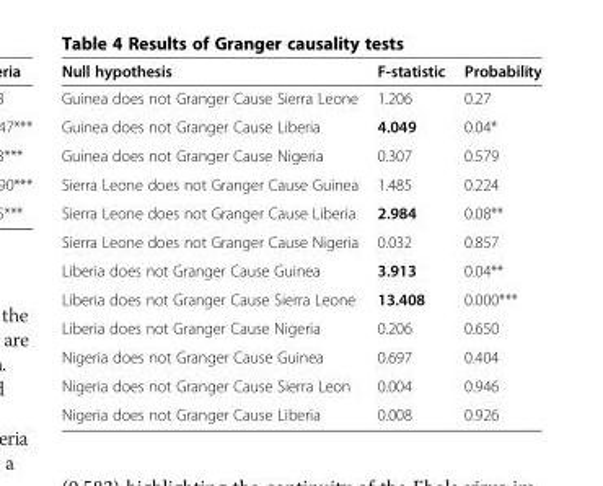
<table><thead><tr><td>Null hypothesis</td><td>F-statistic</td><td>Probability</td></tr></thead><tbody><tr><td>Guinea does not Granger Cause Sierra Leone</td><td>1.206</td><td>0.27</td></tr><tr><td>Guinea does not Granger Cause Liberia</td><td>4.049</td><td>0.04*</td></tr><tr><td>Guinea does not Granger Cause Nigeria</td><td>0.307</td><td>0.579</td></tr><tr><td>Sierra Leone does not Granger Cause Guinea</td><td>1.485</td><td>0.224</td></tr><tr><td>Sierra Leone does not Granger Cause Liberia</td><td>2.984</td><td>0.08**</td></tr><tr><td>Sierra Leone does not Granger Cause Nigeria</td><td>0.032</td><td>0.857</td></tr><tr><td>Liberia does not Granger Cause Guinea</td><td>3.913</td><td>0.04**</td></tr><tr><td>Liberia does not Granger Cause Sierra Leone</td><td>13.408</td><td>0.000***</td></tr><tr><td>Liberia does not Granger Cause Nigeria</td><td>0.206</td><td>0.650</td></tr><tr><td>Nigeria does not Granger Cause Guinea</td><td>0.697</td><td>0.404</td></tr><tr><td>Nigeria does not Granger Cause Sierra Leon</td><td>0.004</td><td>0.946</td></tr><tr><td>Nigeria does not Granger Cause Liberia</td><td>0.008</td><td>0.926</td></tr></tbody></table>